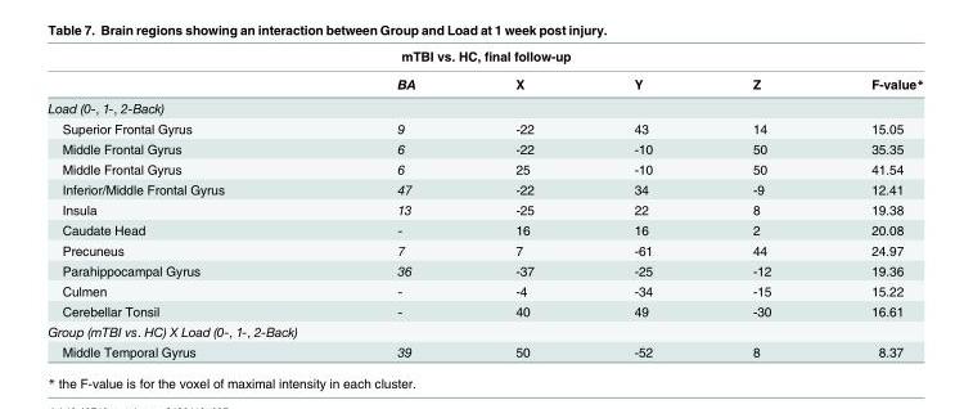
<table><thead><tr><td colspan="6">mTBI vs. HC, final follow-up</td></tr><tr><td></td><td>BA</td><td>X</td><td>Y</td><td>Z</td><td>F-value*</td></tr></thead><tbody><tr><td colspan="6">Load (0-, 1-, 2-Back)</td></tr><tr><td>Superior Frontal Gyrus</td><td>9</td><td>-22</td><td>43</td><td>14</td><td>15.05</td></tr><tr><td>Middle Frontal Gyrus</td><td>6</td><td>-22</td><td>-10</td><td>50</td><td>35.35</td></tr><tr><td>Middle Frontal Gyrus</td><td>6</td><td>25</td><td>-10</td><td>50</td><td>41.54</td></tr><tr><td>Inferior/Middle Frontal Gyrus</td><td>47</td><td>-22</td><td>34</td><td>-9</td><td>12.41</td></tr><tr><td>Insula</td><td>13</td><td>-25</td><td>22</td><td>8</td><td>19.38</td></tr><tr><td>Caudate Head</td><td>-</td><td>16</td><td>16</td><td>2</td><td>20.08</td></tr><tr><td>Precuneus</td><td>7</td><td>7</td><td>-61</td><td>44</td><td>24.97</td></tr><tr><td>Parahippocampal Gyrus</td><td>36</td><td>-37</td><td>-25</td><td>-12</td><td>19.36</td></tr><tr><td>Culmen</td><td>-</td><td>-4</td><td>-34</td><td>-15</td><td>15.22</td></tr><tr><td>Cerebellar Tonsil</td><td>-</td><td>40</td><td>49</td><td>-30</td><td>16.61</td></tr><tr><td colspan="6">Group (mTBI vs. HC) X Load (0-, 1-, 2-Back)</td></tr><tr><td>Middle Temporal Gyrus</td><td>39</td><td>50</td><td>-52</td><td>8</td><td>8.37</td></tr></tbody></table>